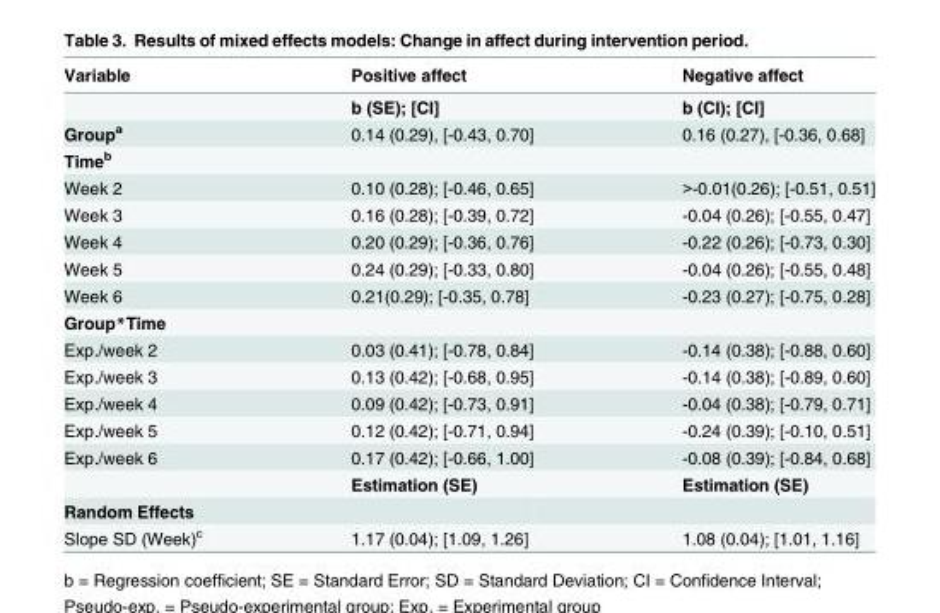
<table><thead><tr><td>Variable</td><td>Positive affect</td><td>Negative affect</td></tr></thead><tbody><tr><td></td><td>b (SE); [CI]</td><td>b (CI); [CI]</td></tr><tr><td>Group<sup>a</sup></td><td>0.14 (0.29), [-0.43, 0.70]</td><td>0.16 (0.27), [-0.36, 0.68]</td></tr><tr><td colspan="3">Time<sup>b</sup></td></tr><tr><td>Week 2</td><td>0.10 (0.28); [-0.46, 0.65]</td><td>&gt;-0.01(0.26); [-0.51, 0.51]</td></tr><tr><td>Week 3</td><td>0.16 (0.28); [-0.39, 0.72]</td><td>-0.04 (0.26); [-0.55, 0.47]</td></tr><tr><td>Week 4</td><td>0.20 (0.29); [-0.36, 0.76]</td><td>-0.22 (0.26); [-0.73, 0.30]</td></tr><tr><td>Week 5</td><td>0.24 (0.29); [-0.33, 0.80]</td><td>-0.04 (0.26); [-0.55, 0.48]</td></tr><tr><td>Week 6</td><td>0.21(0.29); [-0.35, 0.78]</td><td>-0.23 (0.27); [-0.75, 0.28]</td></tr><tr><td colspan="3">Group*Time</td></tr><tr><td>Exp./week 2</td><td>0.03 (0.41); [-0.78, 0.84]</td><td>-0.14 (0.38); [-0.88, 0.60]</td></tr><tr><td>Exp./week 3</td><td>0.13 (0.42); [-0.68, 0.95]</td><td>-0.14 (0.38); [-0.89, 0.60]</td></tr><tr><td>Exp./week 4</td><td>0.09 (0.42); [-0.73, 0.91]</td><td>-0.04 (0.38); [-0.79, 0.71]</td></tr><tr><td>Exp./week 5</td><td>0.12 (0.42); [-0.71, 0.94]</td><td>-0.24 (0.39); [-0.10, 0.51]</td></tr><tr><td rowspan="2">Exp./week 6</td><td>0.17 (0.42); [-0.66, 1.00]</td><td>-0.08 (0.39); [-0.84, 0.68]</td></tr><tr><td>Estimation (SE)</td><td>Estimation (SE)</td></tr><tr><td colspan="3">Random Effects</td></tr><tr><td>Slope SD (Week)<sup>c</sup></td><td>1.17 (0.04); [1.09, 1.26]</td><td>1.08 (0.04); [1.01, 1.16]</td></tr></tbody></table>